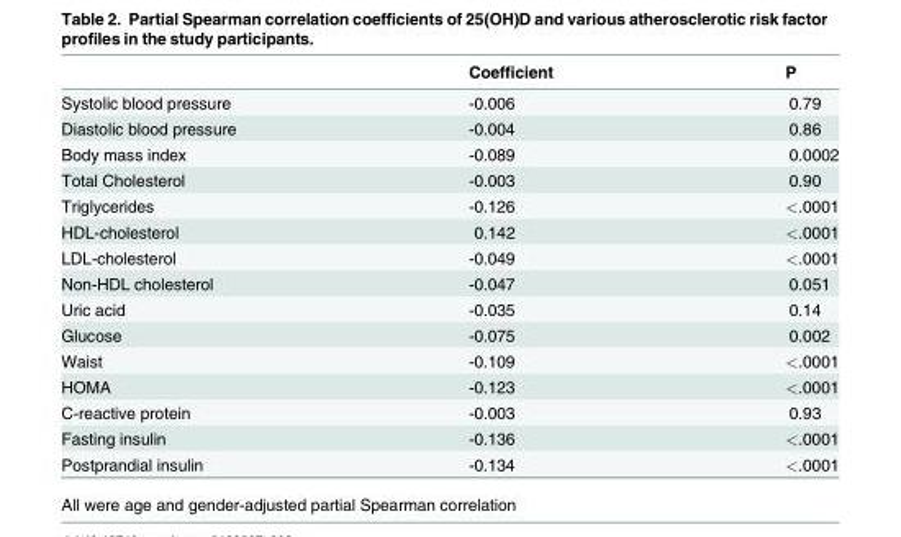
<table><thead><tr><td></td><td>Coefficient</td><td>P</td></tr></thead><tbody><tr><td>Systolic blood pressure</td><td>-0.006</td><td>0.79</td></tr><tr><td>Diastolic blood pressure</td><td>-0.004</td><td>0.86</td></tr><tr><td>Body mass index</td><td>-0.089</td><td>0.0002</td></tr><tr><td>Total Cholesterol</td><td>-0.003</td><td>0.90</td></tr><tr><td>Triglycerides</td><td>-0.126</td><td>&lt;.0001</td></tr><tr><td>HDL-cholesterol</td><td>0.142</td><td>&lt;.0001</td></tr><tr><td>LDL-cholesterol</td><td>-0.049</td><td>&lt;.0001</td></tr><tr><td>Non-HDL cholesterol</td><td>-0.047</td><td>0.051</td></tr><tr><td>Uric acid</td><td>-0.035</td><td>0.14</td></tr><tr><td>Glucose</td><td>-0.075</td><td>0.002</td></tr><tr><td>Waist</td><td>-0.109</td><td>&lt;.0001</td></tr><tr><td>HOMA</td><td>-0.123</td><td>&lt;.0001</td></tr><tr><td>C-reactive protein</td><td>-0.003</td><td>0.93</td></tr><tr><td>Fasting insulin</td><td>-0.136</td><td>&lt;.0001</td></tr><tr><td>Postprandial insulin</td><td>-0.134</td><td>&lt;.0001</td></tr></tbody></table>